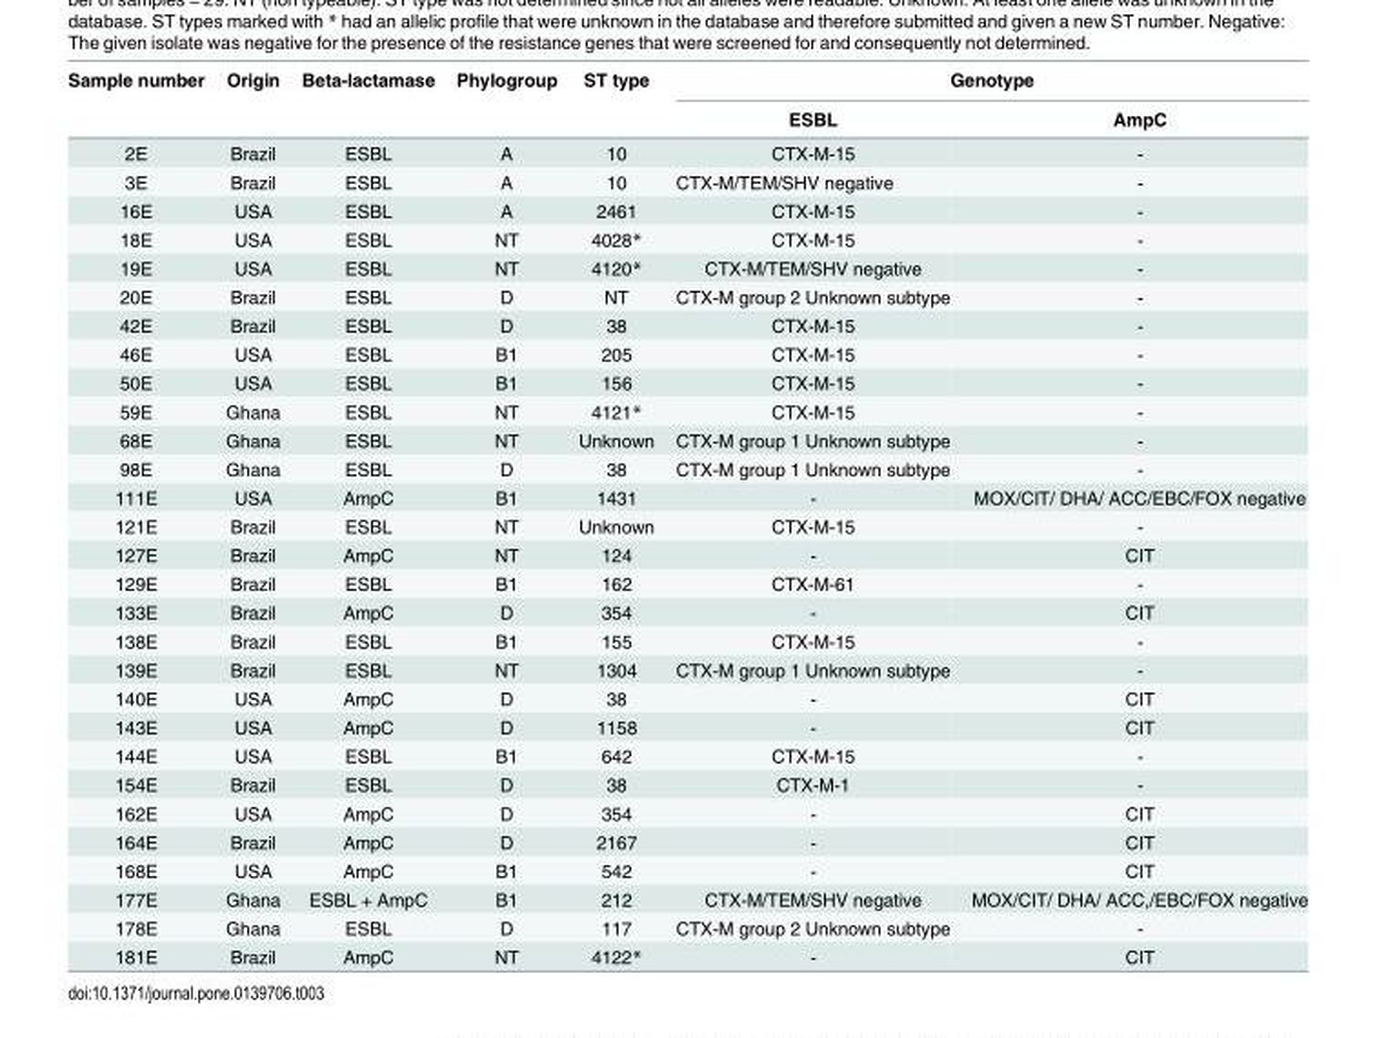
<table><thead><tr><td rowspan="2">Sample number</td><td rowspan="2">Origin</td><td rowspan="2">Beta-lactamase</td><td rowspan="2">Phylogroup</td><td rowspan="2">ST type</td><td colspan="2">Genotype</td></tr><tr><td>ESBL</td><td>AmpC</td></tr></thead><tbody><tr><td>2E</td><td>Brazil</td><td>ESBL</td><td>A</td><td>10</td><td>CTX-M-15</td><td>-</td></tr><tr><td>3E</td><td>Brazil</td><td>ESBL</td><td>A</td><td>10</td><td>CTX-M/TEM/SHV negative</td><td>-</td></tr><tr><td>16E</td><td>USA</td><td>ESBL</td><td>A</td><td>2461</td><td>CTX-M-15</td><td>-</td></tr><tr><td>18E</td><td>USA</td><td>ESBL</td><td>NT</td><td>4028*</td><td>CTX-M-15</td><td>-</td></tr><tr><td>19E</td><td>USA</td><td>ESBL</td><td>NT</td><td>4120*</td><td>CTX-M/TEM/SHV negative</td><td>-</td></tr><tr><td>20E</td><td>Brazil</td><td>ESBL</td><td>D</td><td>NT</td><td>CTX-M group 2 Unknown subtype</td><td>-</td></tr><tr><td>42E</td><td>Brazil</td><td>ESBL</td><td>D</td><td>38</td><td>CTX-M-15</td><td>-</td></tr><tr><td>46E</td><td>USA</td><td>ESBL</td><td>B1</td><td>205</td><td>CTX-M-15</td><td>-</td></tr><tr><td>50E</td><td>USA</td><td>ESBL</td><td>B1</td><td>156</td><td>CTX-M-15</td><td>-</td></tr><tr><td>59E</td><td>Ghana</td><td>ESBL</td><td>NT</td><td>4121*</td><td>CTX-M-15</td><td>-</td></tr><tr><td>68E</td><td>Ghana</td><td>ESBL</td><td>NT</td><td>Unknown</td><td>CTX-M group 1 Unknown subtype</td><td>-</td></tr><tr><td>98E</td><td>Ghana</td><td>ESBL</td><td>D</td><td>38</td><td>CTX-M group 1 Unknown subtype</td><td>-</td></tr><tr><td>111E</td><td>USA</td><td>AmpC</td><td>B1</td><td>1431</td><td>-</td><td>MOX/CIT/ DHA/ ACC/EBC/FOX negative</td></tr><tr><td>121E</td><td>Brazil</td><td>ESBL</td><td>NT</td><td>Unknown</td><td>CTX-M-15</td><td>-</td></tr><tr><td>127E</td><td>Brazil</td><td>AmpC</td><td>NT</td><td>124</td><td>-</td><td>CIT</td></tr><tr><td>129E</td><td>Brazil</td><td>ESBL</td><td>B1</td><td>162</td><td>CTX-M-61</td><td>-</td></tr><tr><td>133E</td><td>Brazil</td><td>AmpC</td><td>D</td><td>354</td><td>-</td><td>CIT</td></tr><tr><td>138E</td><td>Brazil</td><td>ESBL</td><td>B1</td><td>155</td><td>CTX-M-15</td><td>-</td></tr><tr><td>139E</td><td>Brazil</td><td>ESBL</td><td>NT</td><td>1304</td><td>CTX-M group 1 Unknown subtype</td><td>-</td></tr><tr><td>140E</td><td>USA</td><td>AmpC</td><td>D</td><td>38</td><td>-</td><td>CIT</td></tr><tr><td>143E</td><td>USA</td><td>AmpC</td><td>D</td><td>1158</td><td>-</td><td>CIT</td></tr><tr><td>144E</td><td>USA</td><td>ESBL</td><td>B1</td><td>642</td><td>CTX-M-15</td><td>-</td></tr><tr><td>154E</td><td>Brazil</td><td>ESBL</td><td>D</td><td>38</td><td>CTX-M-1</td><td>-</td></tr><tr><td>162E</td><td>USA</td><td>AmpC</td><td>D</td><td>354</td><td>-</td><td>CIT</td></tr><tr><td>164E</td><td>Brazil</td><td>AmpC</td><td>D</td><td>2167</td><td>-</td><td>CIT</td></tr><tr><td>168E</td><td>USA</td><td>AmpC</td><td>B1</td><td>542</td><td>-</td><td>CIT</td></tr><tr><td>177E</td><td>Ghana</td><td>ESBL + AmpC</td><td>B1</td><td>212</td><td>CTX-M/TEM/SHV negative</td><td>MOX/CIT/ DHA/ ACC,/EBC/FOX negative</td></tr><tr><td>178E</td><td>Ghana</td><td>ESBL</td><td>D</td><td>117</td><td>CTX-M group 2 Unknown subtype</td><td>-</td></tr><tr><td>181E</td><td>Brazil</td><td>AmpC</td><td>NT</td><td>4122*</td><td>-</td><td>CIT</td></tr></tbody></table>